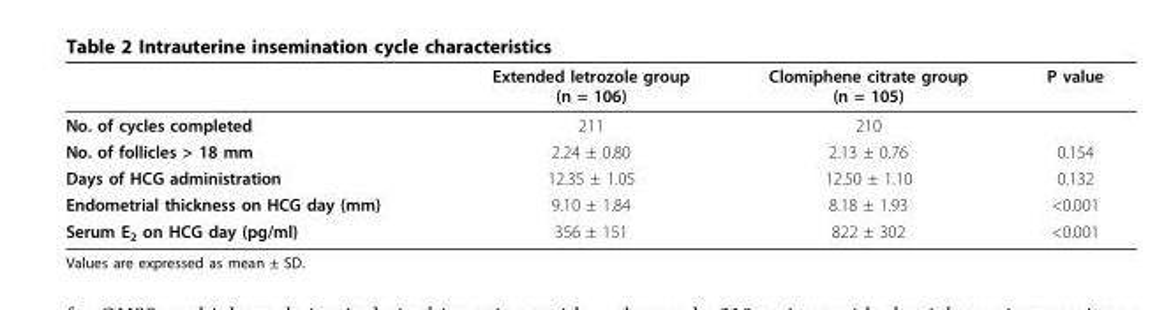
<table><thead><tr><td></td><td>Extended letrozole group (n = 106)</td><td>Clomiphene citrate group (n = 105)</td><td>P value</td></tr></thead><tbody><tr><td>No. of cycles completed</td><td>211</td><td>210</td><td></td></tr><tr><td>No. of follicles &gt; 18 mm</td><td>2.24 ± 0.80</td><td>2.13 ± 0.76</td><td>0.154</td></tr><tr><td>Days of HCG administration</td><td>12.35 ± 1.05</td><td>12.50 ± 1.10</td><td>0.132</td></tr><tr><td>Endometrial thickness on HCG day (mm)</td><td>9.10 ± 1.84</td><td>8.18 ± 1.93</td><td>&lt;0.001</td></tr><tr><td>Serum E<sub>2</sub> on HCG day (pg/ml)</td><td>356 ± 151</td><td>822 ± 302</td><td>&lt;0.001</td></tr></tbody></table>